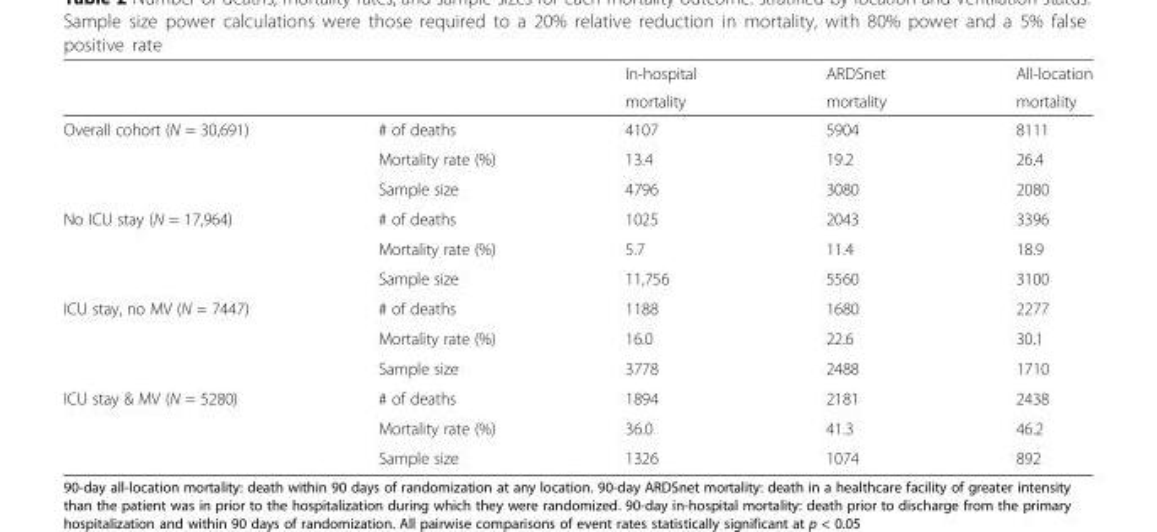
<table><thead><tr><td rowspan="2"></td><td rowspan="2"></td><td rowspan="2">In-hospital mortality</td><td rowspan="2">ARDSnet mortality</td><td rowspan="2">All-location mortality</td></tr><tr></tr></thead><tbody><tr><td rowspan="3">Overall cohort (N = 30,691)</td><td># of deaths</td><td>4107</td><td>5904</td><td>8111</td></tr><tr><td>Mortality rate (%)</td><td>13.4</td><td>19.2</td><td>26.4</td></tr><tr><td>Sample size</td><td>4796</td><td>3080</td><td>2080</td></tr><tr><td rowspan="3">No ICU stay (N = 17,964)</td><td># of deaths</td><td>1025</td><td>2043</td><td>3396</td></tr><tr><td>Mortality rate (%)</td><td>5.7</td><td>11.4</td><td>18.9</td></tr><tr><td>Sample size</td><td>11,756</td><td>5560</td><td>3100</td></tr><tr><td rowspan="3">ICU stay, no MV (N = 7447)</td><td># of deaths</td><td>1188</td><td>1680</td><td>2277</td></tr><tr><td>Mortality rate (%)</td><td>16.0</td><td>22.6</td><td>30.1</td></tr><tr><td>Sample size</td><td>3778</td><td>2488</td><td>1710</td></tr><tr><td rowspan="3">ICU stay &amp; MV (N = 5280)</td><td># of deaths</td><td>1894</td><td>2181</td><td>2438</td></tr><tr><td>Mortality rate (%)</td><td>36.0</td><td>41.3</td><td>46.2</td></tr><tr><td>Sample size</td><td>1326</td><td>1074</td><td>892</td></tr></tbody></table>